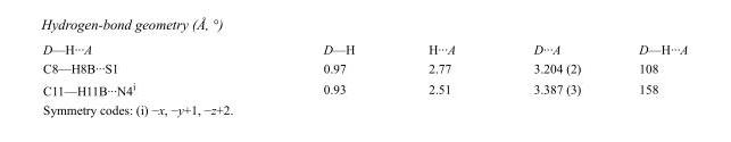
<table><tbody><tr><td>D—H···A</td><td>D—H</td><td>H···A</td><td>D···A</td><td>D—H···A</td></tr><tr><td>C8—H8B···S1</td><td>0.97</td><td>2.77</td><td>3.204 (2)</td><td>108</td></tr><tr><td>C11—H11B···N4<sup>i</sup></td><td>0.93</td><td>2.51</td><td>3.387 (3)</td><td>158</td></tr></tbody></table>